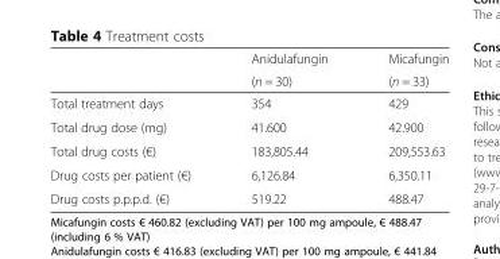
<table><thead><tr><td rowspan="2"></td><td rowspan="2">Anidulafungin (n = 30)</td><td rowspan="2">Micafungin (n = 33)</td></tr><tr></tr></thead><tbody><tr><td>Total treatment days</td><td>354</td><td>429</td></tr><tr><td>Total drug dose (mg)</td><td>41.600</td><td>42.900</td></tr><tr><td>Total drug costs (€)</td><td>183,805.44</td><td>209,553.63</td></tr><tr><td>Drug costs per patient (€)</td><td>6,126.84</td><td>6,350.11</td></tr><tr><td>Drug costs p.p.p.d. (€)</td><td>519.22</td><td>488.47</td></tr></tbody></table>